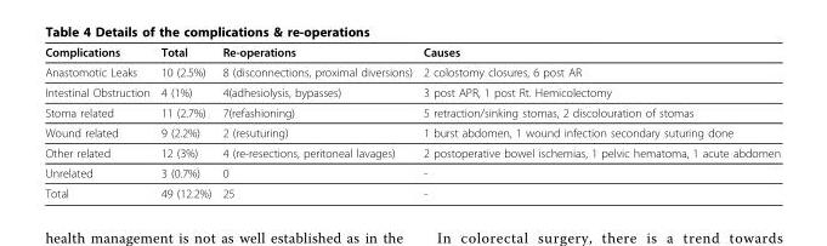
<table><thead><tr><td>Complications</td><td>Total</td><td>Re-operations</td><td>Causes</td></tr></thead><tbody><tr><td>Anastomotic Leaks</td><td>10 (2.5%)</td><td>8 (disconnections, proximal diversions)</td><td>2 colostomy closures, 6 post AR</td></tr><tr><td>Intestinal Obstruction</td><td>4 (1%)</td><td>4(adhesiolysis, bypasses)</td><td>3 post APR, 1 post Rt. Hemicolectomy</td></tr><tr><td>Stoma related</td><td>11 (2.7%)</td><td>7(refashioning)</td><td>5 retraction/sinking stomas, 2 discolouration of stomas</td></tr><tr><td>Wound related</td><td>9 (2.2%)</td><td>2 (resuturing)</td><td>1 burst abdomen, 1 wound infection secondary suturing done</td></tr><tr><td>Other related</td><td>12 (3%)</td><td>4 (re-resections, peritoneal lavages)</td><td>2 postoperative bowel ischemias, 1 pelvic hematoma, 1 acute abdomen</td></tr><tr><td>Unrelated</td><td>3 (0.7%)</td><td>0</td><td>-</td></tr><tr><td>Total</td><td>49 (12.2%)</td><td>25</td><td>-</td></tr></tbody></table>